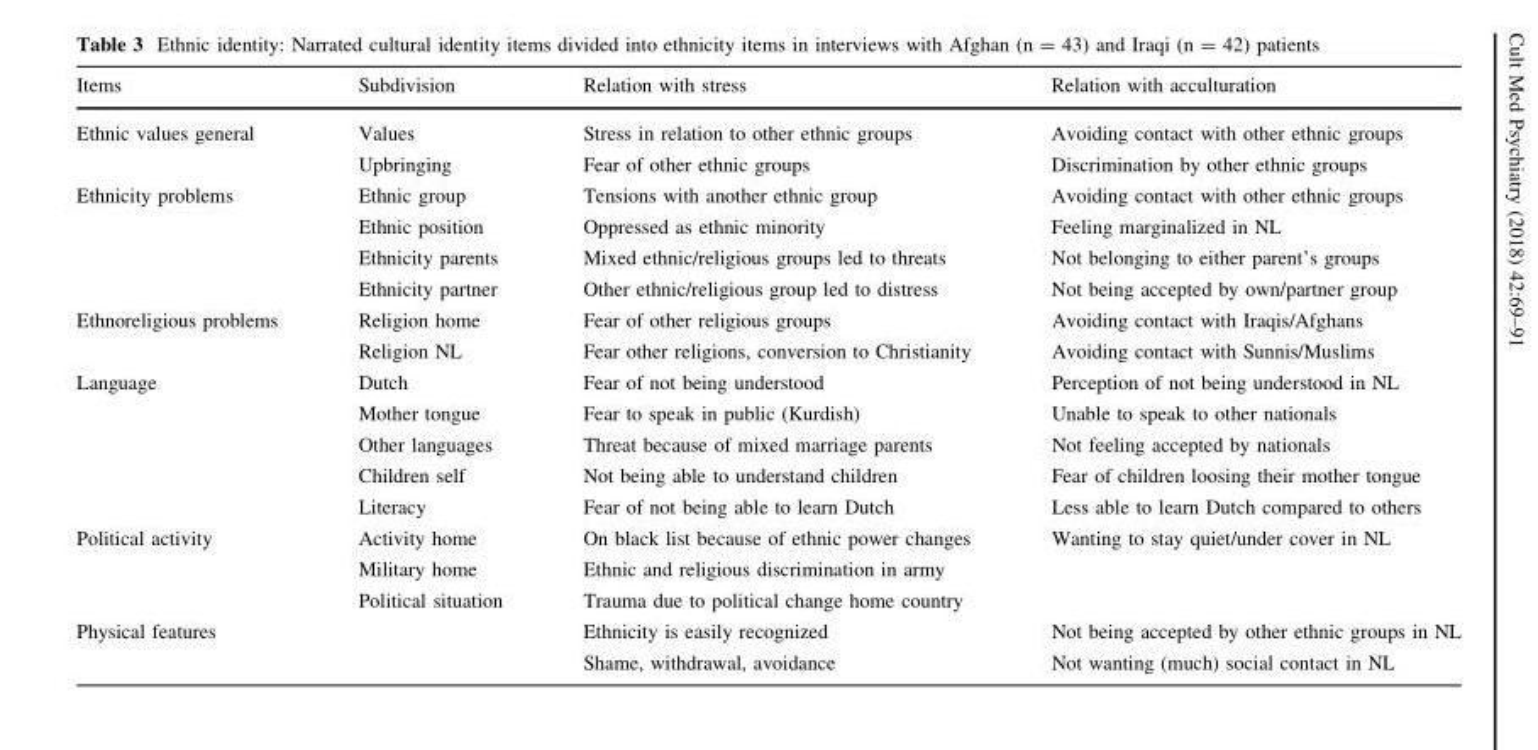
<table><thead><tr><td>Items</td><td>Subdivision</td><td>Relation with stress</td><td>Relation with acculturation</td></tr></thead><tbody><tr><td>Ethnic values general</td><td>Values Upbringing</td><td>Stress in relation to other ethnic groups Fear of other ethnic groups</td><td>Avoiding contact with other ethnic groups Discrimination by other ethnic groups</td></tr><tr><td>Ethnicity problems</td><td>Ethnic group Ethnic position Ethnicity parents Ethnicity partner</td><td>Tensions with another ethnic group Oppressed as ethnic minority Mixed ethnic/religious groups led to threats Other ethnic/religious group led to distress</td><td>Avoiding contact with other ethnic groups Feeling marginalized in NL Not belonging to either parent’s groups Not being accepted by own/partner group</td></tr><tr><td>Ethnoreligious problems</td><td>Religion home Religion NL</td><td>Fear of other religious groups Fear other religions, conversion to Christianity</td><td>Avoiding contact with Iraqis/Afghans Avoiding contact with Sunnis/Muslims</td></tr><tr><td>Language</td><td>Dutch Mother tongue Other languages Children self Literacy</td><td>Fear of not being understood Fear to speak in public (Kurdish) Threat because of mixed marriage parents Not being able to understand children Fear of not being able to learn Dutch</td><td>Perception of not being understood in NL Unable to speak to other nationals Not feeling accepted by nationals Fear of children loosing their mother tongue Less able to learn Dutch compared to others</td></tr><tr><td>Political activity</td><td>Activity home Military home Political situation</td><td>On black list because of ethnic power changes Ethnic and religious discrimination in army Trauma due to political change home country</td><td>Wanting to stay quiet/under cover in NL</td></tr><tr><td>Physical features</td><td></td><td>Ethnicity is easily recognized Shame, withdrawal, avoidance</td><td>Not being accepted by other ethnic groups in NL Not wanting (much) social contact in NL</td></tr></tbody></table>